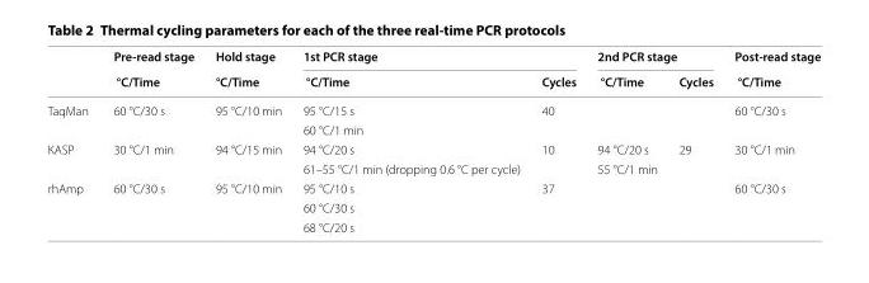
<table><thead><tr><td rowspan="2"></td><td rowspan="2">Pre-read stage °C/Time</td><td rowspan="2">Hold stage °C/Time</td><td colspan="2">1st PCR stage</td><td colspan="2">2nd PCR stage</td><td rowspan="2">Post-read stage °C/Time</td></tr><tr><td>°C/Time</td><td>Cycles</td><td>°C/Time</td><td>Cycles</td></tr></thead><tbody><tr><td rowspan="2">TaqMan</td><td rowspan="2">60 °C/30 s</td><td rowspan="2">95 °C/10 min</td><td>95 °C/15 s</td><td rowspan="2">40</td><td rowspan="2"></td><td rowspan="2"></td><td rowspan="2">60 °C/30 s</td></tr><tr><td>60 °C/1 min</td></tr><tr><td rowspan="2">KASP</td><td rowspan="2">30 °C/1 min</td><td rowspan="2">94 °C/15 min</td><td>94 °C/20 s</td><td rowspan="2">10</td><td>94 °C/20 s</td><td rowspan="2">29</td><td rowspan="2">30 °C/1 min</td></tr><tr><td>61–55 °C/1 min (dropping 0.6 °C per cycle)</td><td>55 °C/1 min</td></tr><tr><td rowspan="3">rhAmp</td><td rowspan="3">60 °C/30 s</td><td rowspan="3">95 °C/10 min</td><td>95 °C/10 s</td><td rowspan="3">37</td><td rowspan="3"></td><td rowspan="3"></td><td rowspan="3">60 °C/30 s</td></tr><tr><td>60 °C/30 s</td></tr><tr><td>68 °C/20 s</td></tr></tbody></table>